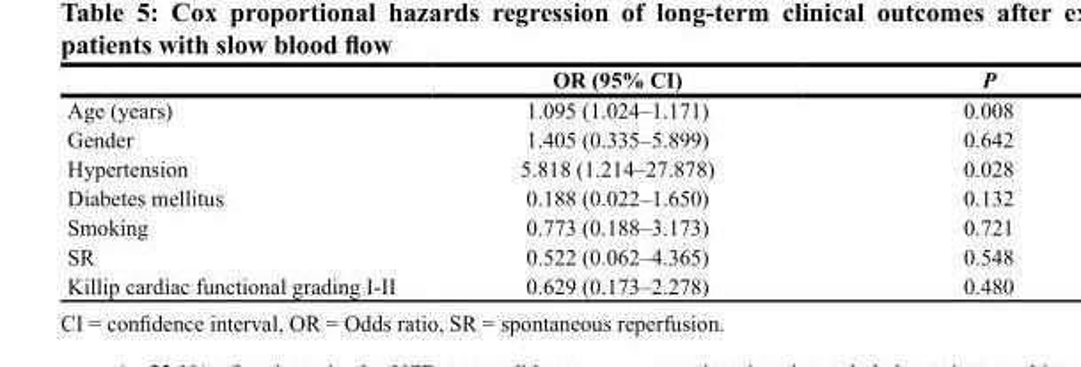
<table><thead><tr><td></td><td>OR (95% CI)</td><td>P</td></tr></thead><tbody><tr><td>Age (years)</td><td>1.095 (1.024–1.171)</td><td>0.008</td></tr><tr><td>Gender</td><td>1.405 (0.335–5.899)</td><td>0.642</td></tr><tr><td>Hypertension</td><td>5.818 (1.214–27.878)</td><td>0.028</td></tr><tr><td>Diabetes mellitus</td><td>0.188 (0.022–1.650)</td><td>0.132</td></tr><tr><td>Smoking</td><td>0.773 (0.188–3.173)</td><td>0.721</td></tr><tr><td>SR</td><td>0.522 (0.062–4.365)</td><td>0.548</td></tr><tr><td>Killip cardiac functional grading I-II</td><td>0.629 (0.173–2.278)</td><td>0.480</td></tr></tbody></table>